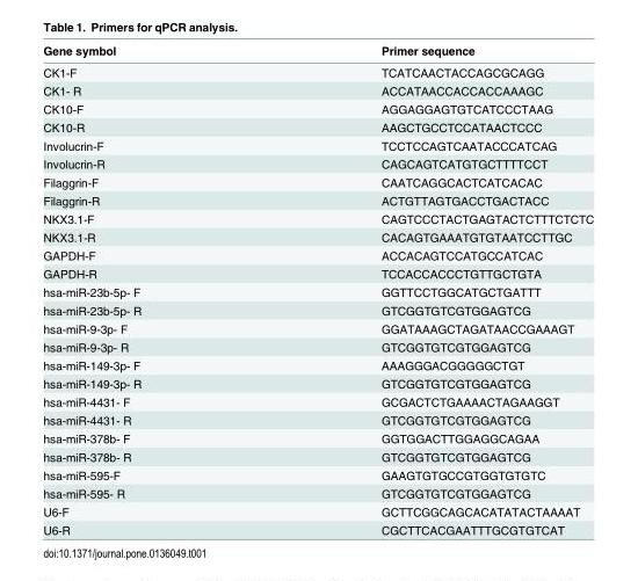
<table><thead><tr><td>Gene symbol</td><td>Primer sequence</td></tr></thead><tbody><tr><td>CK1-F</td><td>TCATCAACTACCAGCGCAGG</td></tr><tr><td>CK1- R</td><td>ACCATAACCACCACCAAAGC</td></tr><tr><td>CK10-F</td><td>AGGAGGAGTGTCATCCCTAAG</td></tr><tr><td>CK10-R</td><td>AAGCTGCCTCCATAACTCCC</td></tr><tr><td>Involucrin-F</td><td>TCCTCCAGTCAATACCCATCAG</td></tr><tr><td>Involucrin-R</td><td>CAGCAGTCATGTGCTTTTCCT</td></tr><tr><td>Filaggrin-F</td><td>CAATCAGGCACTCATCACAC</td></tr><tr><td>Filaggrin-R</td><td>ACTGTTAGTGACCTGACTACC</td></tr><tr><td>NKX3.1-F</td><td>CAGTCCCTACTGAGTACTCTTTCTCTC</td></tr><tr><td>NKX3.1-R</td><td>CACAGTGAAATGTGTAATCCTTGC</td></tr><tr><td>GAPDH-F</td><td>ACCACAGTCCATGCCATCAC</td></tr><tr><td>GAPDH-R</td><td>TCCACCACCCTGTTGCTGTA</td></tr><tr><td>hsa-miR-23b-5p- F</td><td>GGTTCCTGGCATGCTGATTT</td></tr><tr><td>hsa-miR-23b-5p- R</td><td>GTCGGTGTCGTGGAGTCG</td></tr><tr><td>hsa-miR-9-3p- F</td><td>GGATAAAGCTAGATAACCGAAAGT</td></tr><tr><td>hsa-miR-9-3p- R</td><td>GTCGGTGTCGTGGAGTCG</td></tr><tr><td>hsa-miR-149-3p- F</td><td>AAAGGGACGGGGGCTGT</td></tr><tr><td>hsa-miR-149-3p- R</td><td>GTCGGTGTCGTGGAGTCG</td></tr><tr><td>hsa-miR-4431- F</td><td>GCGACTCTGAAAACTAGAAGGT</td></tr><tr><td>hsa-miR-4431- R</td><td>GTCGGTGTCGTGGAGTCG</td></tr><tr><td>hsa-miR-378b- F</td><td>GGTGGACTTGGAGGCAGAA</td></tr><tr><td>hsa-miR-378b- R</td><td>GTCGGTGTCGTGGAGTCG</td></tr><tr><td>hsa-miR-595-F</td><td>GAAGTGTGCCGTGGTGTGTC</td></tr><tr><td>hsa-miR-595- R</td><td>GTCGGTGTCGTGGAGTCG</td></tr><tr><td>U6-F</td><td>GCTTCGGCAGCACATATACTAAAAT</td></tr><tr><td>U6-R</td><td>CGCTTCACGAATTTGCGTGTCAT</td></tr></tbody></table>